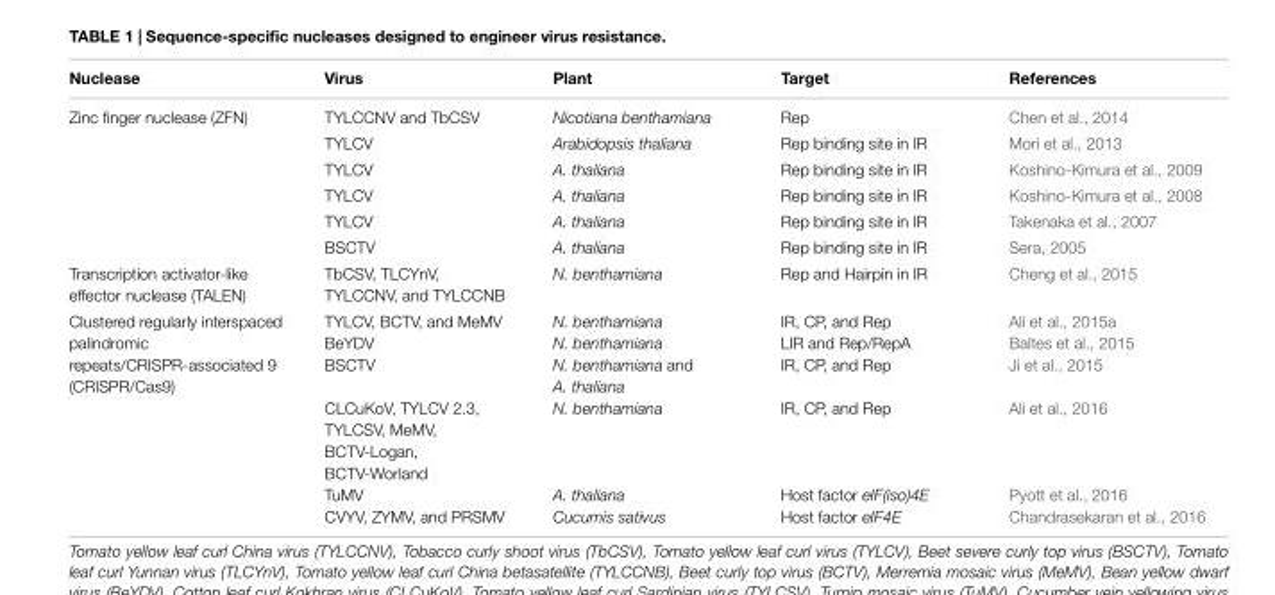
<table><thead><tr><td>Nuclease</td><td>Virus</td><td>Plant</td><td>Target</td><td>References</td></tr></thead><tbody><tr><td rowspan="6">Zinc finger nuclease (ZFN)</td><td>TYLCCNV and TbCSV</td><td>Nicotiana benthamiana</td><td>Rep</td><td>Chen et al., 2014</td></tr><tr><td>TYLCV</td><td>Arabidopsis thaliana</td><td>Rep binding site in IR</td><td>Mori et al., 2013</td></tr><tr><td>TYLCV</td><td>A. thaliana</td><td>Rep binding site in IR</td><td>Koshino-Kimura et al., 2009</td></tr><tr><td>TYLCV</td><td>A. thaliana</td><td>Rep binding site in IR</td><td>Koshino-Kimura et al., 2008</td></tr><tr><td>TYLCV</td><td>A. thaliana</td><td>Rep binding site in IR</td><td>Takenaka et al., 2007</td></tr><tr><td>BSCTV</td><td>A. thaliana</td><td>Rep binding site in IR</td><td>Sera, 2005</td></tr><tr><td>Transcription activator-like effector nuclease (TALEN)</td><td>TbCSV, TLCYnV, TYLCCNV, and TYLCCNB</td><td>N. benthamiana</td><td>Rep and Hairpin in IR</td><td>Cheng et al., 2015</td></tr><tr><td>Clustered regularly interspaced palindromic repeats/CRISPR-associated 9 (CRISPR/Cas9)</td><td>TYLCV, BCTV, and MeMV BeYDV BSCTV CLCuKoV, TYLCV 2.3, TYLCSV, MeMV, BCTV-Logan, BCTV-Worland TuMV CVYV, ZYMV, and PRSMV</td><td>N. benthamiana N. benthamiana N. benthamiana and A. thaliana N. benthamiana A. thaliana Cucumis sativus</td><td>IR, CP, and Rep LIR and Rep/RepA IR, CP, and Rep IR, CP, and Rep Host factor eIF(iso)4E Host factor eIF4E</td><td>Ali et al., 2015a Baltes et al., 2015 Ji et al., 2015 Ali et al., 2016 Pyott et al., 2016 Chandrasekaran et al., 2016</td></tr></tbody></table>